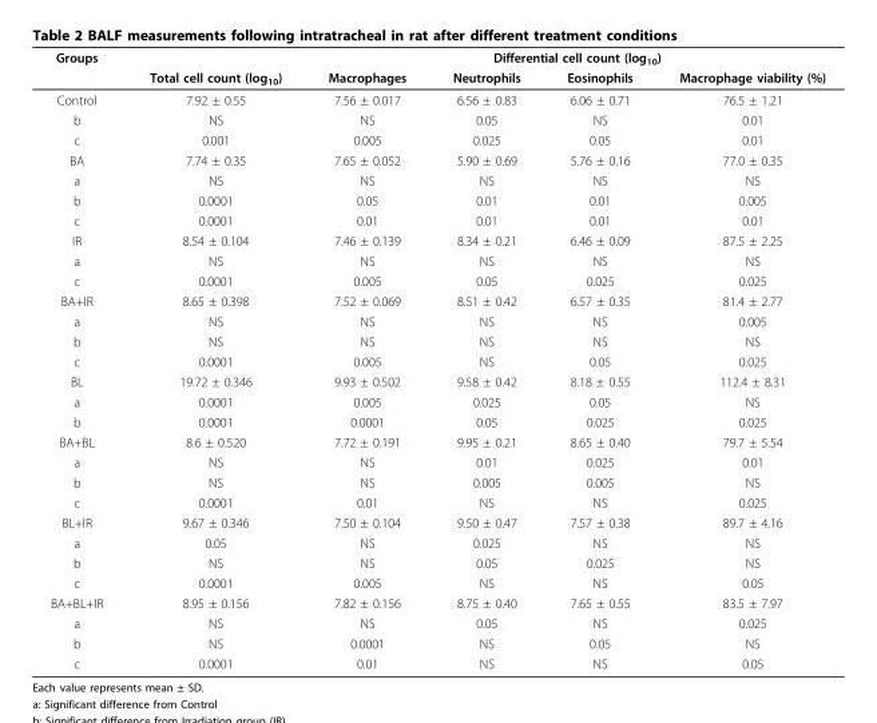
<table><thead><tr><td rowspan="2">Groups</td><td rowspan="2">Total cell count (log<sub>10</sub>)</td><td colspan="4">Differential cell count (log<sub>10</sub>)</td></tr><tr><td>Macrophages</td><td>Neutrophils</td><td>Eosinophils</td><td>Macrophage viability (%)</td></tr></thead><tbody><tr><td>Control</td><td>7.92 ± 0.55</td><td>7.56 ± 0.017</td><td>6.56 ± 0.83</td><td>6.06 ± 0.71</td><td>76.5 ± 1.21</td></tr><tr><td>b</td><td>NS</td><td>NS</td><td>0.05</td><td>NS</td><td>0.01</td></tr><tr><td>c</td><td>0.001</td><td>0.005</td><td>0.025</td><td>0.05</td><td>0.01</td></tr><tr><td>BA</td><td>7.74 ± 0.35</td><td>7.65 ± 0.052</td><td>5.90 ± 0.69</td><td>5.76 ± 0.16</td><td>77.0 ± 0.35</td></tr><tr><td>a</td><td>NS</td><td>NS</td><td>NS</td><td>NS</td><td>NS</td></tr><tr><td>b</td><td>0.0001</td><td>0.05</td><td>0.01</td><td>0.01</td><td>0.005</td></tr><tr><td>c</td><td>0.0001</td><td>0.01</td><td>0.01</td><td>0.01</td><td>0.01</td></tr><tr><td>IR</td><td>8.54 ± 0.104</td><td>7.46 ± 0.139</td><td>8.34 ± 0.21</td><td>6.46 ± 0.09</td><td>87.5 ± 2.25</td></tr><tr><td>a</td><td>NS</td><td>NS</td><td>NS</td><td>NS</td><td>NS</td></tr><tr><td>c</td><td>0.0001</td><td>0.005</td><td>0.05</td><td>0.025</td><td>0.025</td></tr><tr><td>BA+IR</td><td>8.65 ± 0.398</td><td>7.52 ± 0.069</td><td>8.51 ± 0.42</td><td>6.57 ± 0.35</td><td>81.4 ± 2.77</td></tr><tr><td>a</td><td>NS</td><td>NS</td><td>NS</td><td>NS</td><td>0.005</td></tr><tr><td>b</td><td>NS</td><td>NS</td><td>NS</td><td>NS</td><td>NS</td></tr><tr><td>c</td><td>0.0001</td><td>0.005</td><td>NS</td><td>0.05</td><td>0.025</td></tr><tr><td>BL</td><td>19.72 ± 0.346</td><td>9.93 ± 0.502</td><td>9.58 ± 0.42</td><td>8.18 ± 0.55</td><td>112.4 ± 8.31</td></tr><tr><td>a</td><td>0.0001</td><td>0.005</td><td>0.025</td><td>0.05</td><td>NS</td></tr><tr><td>b</td><td>0.0001</td><td>0.0001</td><td>0.05</td><td>0.025</td><td>0.025</td></tr><tr><td>BA+BL</td><td>8.6 ± 0.520</td><td>7.72 ± 0.191</td><td>9.95 ± 0.21</td><td>8.65 ± 0.40</td><td>79.7 ± 5.54</td></tr><tr><td>a</td><td>NS</td><td>NS</td><td>0.01</td><td>0.025</td><td>0.01</td></tr><tr><td>b</td><td>NS</td><td>NS</td><td>0.005</td><td>0.005</td><td>NS</td></tr><tr><td>c</td><td>0.0001</td><td>0.01</td><td>NS</td><td>NS</td><td>0.025</td></tr><tr><td>BL+IR</td><td>9.67 ± 0.346</td><td>7.50 ± 0.104</td><td>9.50 ± 0.47</td><td>7.57 ± 0.38</td><td>89.7 ± 4.16</td></tr><tr><td>a</td><td>0.05</td><td>NS</td><td>0.025</td><td>NS</td><td>NS</td></tr><tr><td>b</td><td>NS</td><td>NS</td><td>0.05</td><td>0.025</td><td>NS</td></tr><tr><td>c</td><td>0.0001</td><td>0.005</td><td>NS</td><td>NS</td><td>0.05</td></tr><tr><td>BA+BL+IR</td><td>8.95 ± 0.156</td><td>7.82 ± 0.156</td><td>8.75 ± 0.40</td><td>7.65 ± 0.55</td><td>83.5 ± 7.97</td></tr><tr><td>a</td><td>NS</td><td>NS</td><td>0.05</td><td>NS</td><td>0.025</td></tr><tr><td>b</td><td>NS</td><td>0.0001</td><td>NS</td><td>0.05</td><td>NS</td></tr><tr><td>c</td><td>0.0001</td><td>0.01</td><td>NS</td><td>NS</td><td>0.05</td></tr></tbody></table>